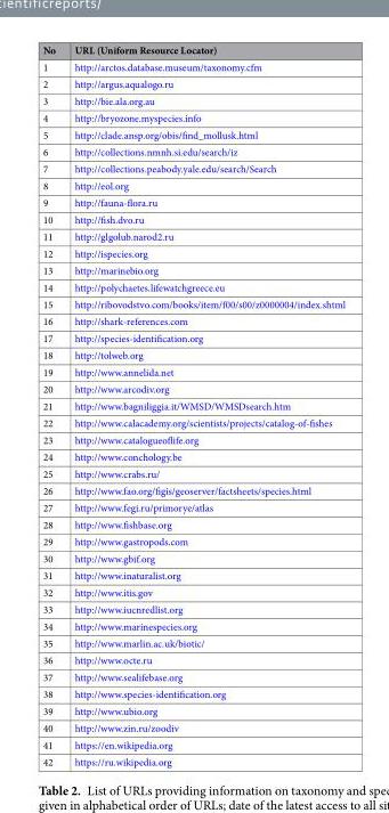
<table><thead><tr><td>No</td><td>URL (Uniform Resource Locator)</td></tr></thead><tbody><tr><td>1</td><td>http://arctos.database.museum/taxonomy.cfm</td></tr><tr><td>2</td><td>http://argus.aqualogo.ru</td></tr><tr><td>3</td><td>http://bie.ala.org.au</td></tr><tr><td>4</td><td>http://bryozone.myspecies.info</td></tr><tr><td>5</td><td>http://clade.ansp.org/obis/find_mollusk.html</td></tr><tr><td>6</td><td>http://collections.nmnh.si.edu/search/iz</td></tr><tr><td>7</td><td>http://collections.peabody.yale.edu/search/Search</td></tr><tr><td>8</td><td>http://eol.org</td></tr><tr><td>9</td><td>http://fauna-flora.ru</td></tr><tr><td>10</td><td>http://fish.dvo.ru</td></tr><tr><td>11</td><td>http://glgolub.narod2.ru</td></tr><tr><td>12</td><td>http://ispecies.org</td></tr><tr><td>13</td><td>http://marinebio.org</td></tr><tr><td>14</td><td>http://polychaetes.lifewatchgreece.eu</td></tr><tr><td>15</td><td>http://ribovodstvo.com/books/item/f00/s00/z0000004/index.shtml</td></tr><tr><td>16</td><td>http://shark-references.com</td></tr><tr><td>17</td><td>http://species-identification.org</td></tr><tr><td>18</td><td>http://tolweb.org</td></tr><tr><td>19</td><td>http://www.annelida.net</td></tr><tr><td>20</td><td>http://www.arcodiv.org</td></tr><tr><td>21</td><td>http://www.bagniliggia.it/WMSD/WMSDsearch.htm</td></tr><tr><td>22</td><td>http://www.calacademy.org/scientists/projects/catalog-of-fishes</td></tr><tr><td>23</td><td>http://www.catalogueoflife.org</td></tr><tr><td>24</td><td>http://www.conchology.be</td></tr><tr><td>25</td><td>http://www.crabs.ru/</td></tr><tr><td>26</td><td>http://www.fao.org/figis/geoserver/factsheets/species.html</td></tr><tr><td>27</td><td>http://www.fegi.ru/primorye/atlas</td></tr><tr><td>28</td><td>http://www.fishbase.org</td></tr><tr><td>29</td><td>http://www.gastropods.com</td></tr><tr><td>30</td><td>http://www.gbif.org</td></tr><tr><td>31</td><td>http://www.inaturalist.org</td></tr><tr><td>32</td><td>http://www.itis.gov</td></tr><tr><td>33</td><td>http://www.iucnredlist.org</td></tr><tr><td>34</td><td>http://www.marinespecies.org</td></tr><tr><td>35</td><td>http://www.marlin.ac.uk/biotic/</td></tr><tr><td>36</td><td>http://www.octe.ru</td></tr><tr><td>37</td><td>http://www.sealifebase.org</td></tr><tr><td>38</td><td>http://www.species-identification.org</td></tr><tr><td>39</td><td>http://www.ubio.org</td></tr><tr><td>40</td><td>http://www.zin.ru/zoodiv</td></tr><tr><td>41</td><td>https://en.wikipedia.org</td></tr><tr><td>42</td><td>https://ru.wikipedia.org</td></tr></tbody></table>